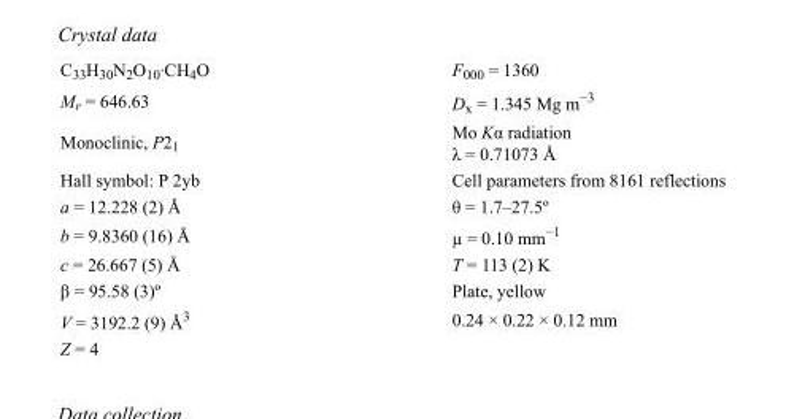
<table><tbody><tr><td>C<sub>33</sub>H<sub>30</sub>N<sub>2</sub>O<sub>10</sub>·CH<sub>4</sub>O</td><td>F<sub>000</sub> = 1360</td></tr><tr><td>M<sub>r</sub> = 646.63</td><td>D<sub>x</sub> = 1.345 Mg m<sup>−3</sup></td></tr><tr><td>Monoclinic, P2<sub>1</sub></td><td>Mo Kα radiation λ = 0.71073 Å</td></tr><tr><td>Hall symbol: P 2yb</td><td>Cell parameters from 8161 reflections</td></tr><tr><td>a = 12.228 (2) Å</td><td>θ = 1.7–27.5º</td></tr><tr><td>b = 9.8360 (16) Å</td><td>µ = 0.10 mm<sup>−1</sup></td></tr><tr><td>c = 26.667 (5) Å</td><td>T = 113 (2) K</td></tr><tr><td>β = 95.58 (3)º</td><td>Plate, yellow</td></tr><tr><td>V = 3192.2 (9) Å<sup>3</sup></td><td>0.24 × 0.22 × 0.12 mm</td></tr><tr><td>Z = 4</td><td></td></tr></tbody></table>